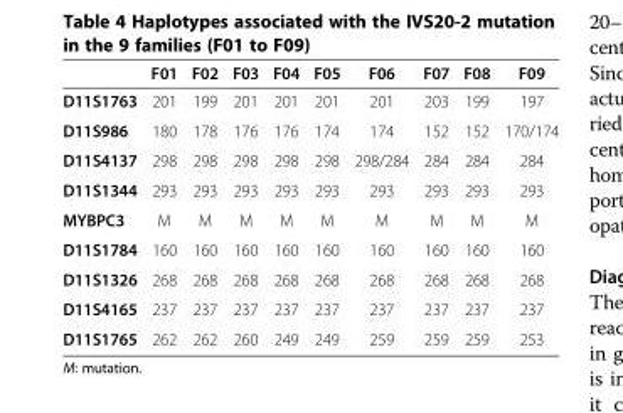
<table><thead><tr><td></td><td>F01</td><td>F02</td><td>F03</td><td>F04</td><td>F05</td><td>F06</td><td>F07</td><td>F08</td><td>F09</td></tr></thead><tbody><tr><td>D11S1763</td><td>201</td><td>199</td><td>201</td><td>201</td><td>201</td><td>201</td><td>203</td><td>199</td><td>197</td></tr><tr><td>D11S986</td><td>180</td><td>178</td><td>176</td><td>176</td><td>174</td><td>174</td><td>152</td><td>152</td><td>170/174</td></tr><tr><td>D11S4137</td><td>298</td><td>298</td><td>298</td><td>298</td><td>298</td><td>298/284</td><td>284</td><td>284</td><td>284</td></tr><tr><td>D11S1344</td><td>293</td><td>293</td><td>293</td><td>293</td><td>293</td><td>293</td><td>293</td><td>293</td><td>293</td></tr><tr><td>MYBPC3</td><td>M</td><td>M</td><td>M</td><td>M</td><td>M</td><td>M</td><td>M</td><td>M</td><td>M</td></tr><tr><td>D11S1784</td><td>160</td><td>160</td><td>160</td><td>160</td><td>160</td><td>160</td><td>160</td><td>160</td><td>160</td></tr><tr><td>D11S1326</td><td>268</td><td>268</td><td>268</td><td>268</td><td>268</td><td>268</td><td>268</td><td>268</td><td>268</td></tr><tr><td>D11S4165</td><td>237</td><td>237</td><td>237</td><td>237</td><td>237</td><td>237</td><td>237</td><td>237</td><td>237</td></tr><tr><td>D11S1765</td><td>262</td><td>262</td><td>260</td><td>249</td><td>249</td><td>259</td><td>259</td><td>259</td><td>253</td></tr></tbody></table>